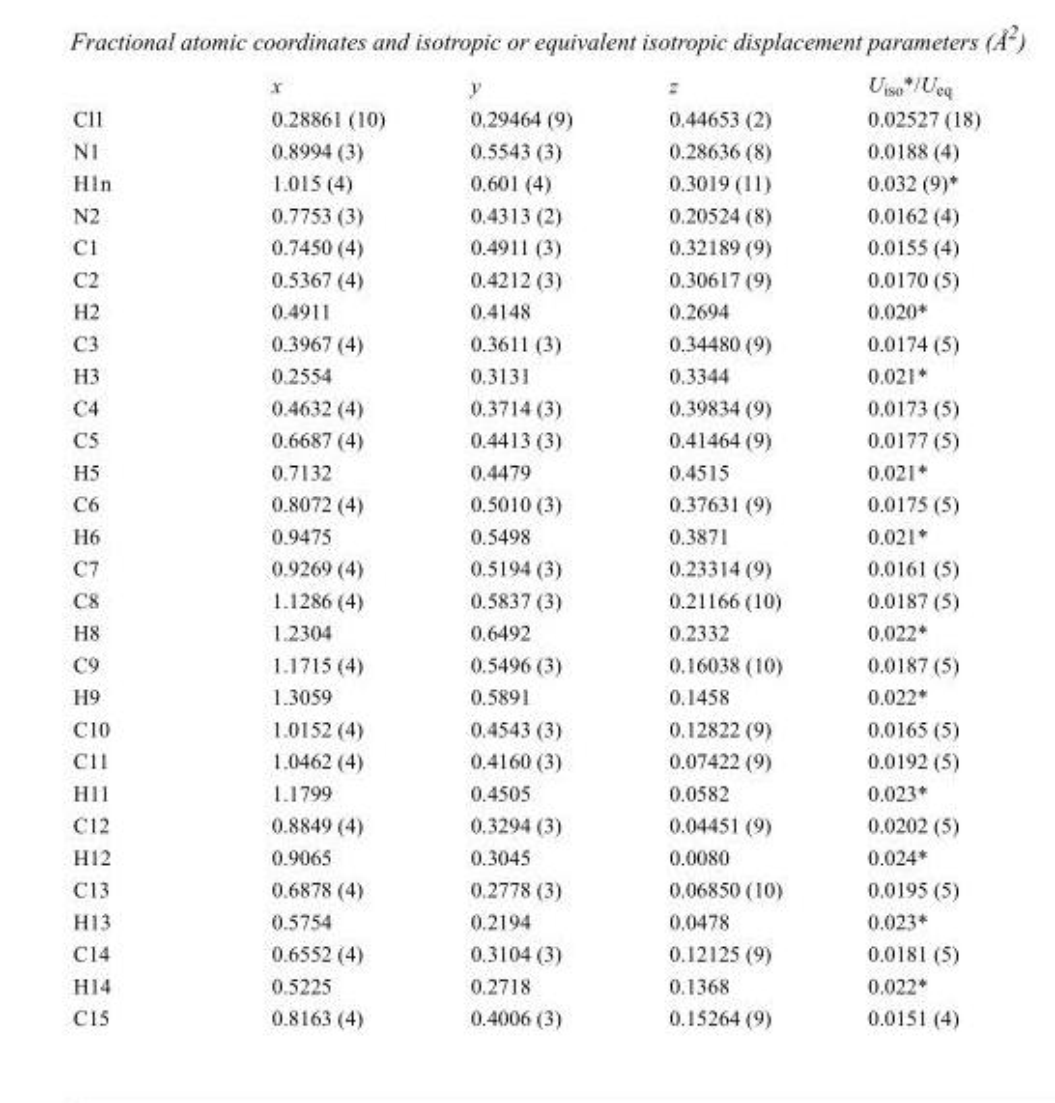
<table><thead><tr><td></td><td>x</td><td>y</td><td>z</td><td>U<sub>iso</sub>*/U<sub>eq</sub></td></tr></thead><tbody><tr><td>Cl1</td><td>0.28861 (10)</td><td>0.29464 (9)</td><td>0.44653 (2)</td><td>0.02527 (18)</td></tr><tr><td>N1</td><td>0.8994 (3)</td><td>0.5543 (3)</td><td>0.28636 (8)</td><td>0.0188 (4)</td></tr><tr><td>H1n</td><td>1.015 (4)</td><td>0.601 (4)</td><td>0.3019 (11)</td><td>0.032 (9)*</td></tr><tr><td>N2</td><td>0.7753 (3)</td><td>0.4313 (2)</td><td>0.20524 (8)</td><td>0.0162 (4)</td></tr><tr><td>C1</td><td>0.7450 (4)</td><td>0.4911 (3)</td><td>0.32189 (9)</td><td>0.0155 (4)</td></tr><tr><td>C2</td><td>0.5367 (4)</td><td>0.4212 (3)</td><td>0.30617 (9)</td><td>0.0170 (5)</td></tr><tr><td>H2</td><td>0.4911</td><td>0.4148</td><td>0.2694</td><td>0.020*</td></tr><tr><td>C3</td><td>0.3967 (4)</td><td>0.3611 (3)</td><td>0.34480 (9)</td><td>0.0174 (5)</td></tr><tr><td>H3</td><td>0.2554</td><td>0.3131</td><td>0.3344</td><td>0.021*</td></tr><tr><td>C4</td><td>0.4632 (4)</td><td>0.3714 (3)</td><td>0.39834 (9)</td><td>0.0173 (5)</td></tr><tr><td>C5</td><td>0.6687 (4)</td><td>0.4413 (3)</td><td>0.41464 (9)</td><td>0.0177 (5)</td></tr><tr><td>H5</td><td>0.7132</td><td>0.4479</td><td>0.4515</td><td>0.021*</td></tr><tr><td>C6</td><td>0.8072 (4)</td><td>0.5010 (3)</td><td>0.37631 (9)</td><td>0.0175 (5)</td></tr><tr><td>H6</td><td>0.9475</td><td>0.5498</td><td>0.3871</td><td>0.021*</td></tr><tr><td>C7</td><td>0.9269 (4)</td><td>0.5194 (3)</td><td>0.23314 (9)</td><td>0.0161 (5)</td></tr><tr><td>C8</td><td>1.1286 (4)</td><td>0.5837 (3)</td><td>0.21166 (10)</td><td>0.0187 (5)</td></tr><tr><td>H8</td><td>1.2304</td><td>0.6492</td><td>0.2332</td><td>0.022*</td></tr><tr><td>C9</td><td>1.1715 (4)</td><td>0.5496 (3)</td><td>0.16038 (10)</td><td>0.0187 (5)</td></tr><tr><td>H9</td><td>1.3059</td><td>0.5891</td><td>0.1458</td><td>0.022*</td></tr><tr><td>C10</td><td>1.0152 (4)</td><td>0.4543 (3)</td><td>0.12822 (9)</td><td>0.0165 (5)</td></tr><tr><td>C11</td><td>1.0462 (4)</td><td>0.4160 (3)</td><td>0.07422 (9)</td><td>0.0192 (5)</td></tr><tr><td>H11</td><td>1.1799</td><td>0.4505</td><td>0.0582</td><td>0.023*</td></tr><tr><td>C12</td><td>0.8849 (4)</td><td>0.3294 (3)</td><td>0.04451 (9)</td><td>0.0202 (5)</td></tr><tr><td>H12</td><td>0.9065</td><td>0.3045</td><td>0.0080</td><td>0.024*</td></tr><tr><td>C13</td><td>0.6878 (4)</td><td>0.2778 (3)</td><td>0.06850 (10)</td><td>0.0195 (5)</td></tr><tr><td>H13</td><td>0.5754</td><td>0.2194</td><td>0.0478</td><td>0.023*</td></tr><tr><td>C14</td><td>0.6552 (4)</td><td>0.3104 (3)</td><td>0.12125 (9)</td><td>0.0181 (5)</td></tr><tr><td>H14</td><td>0.5225</td><td>0.2718</td><td>0.1368</td><td>0.022*</td></tr><tr><td>C15</td><td>0.8163 (4)</td><td>0.4006 (3)</td><td>0.15264 (9)</td><td>0.0151 (4)</td></tr></tbody></table>